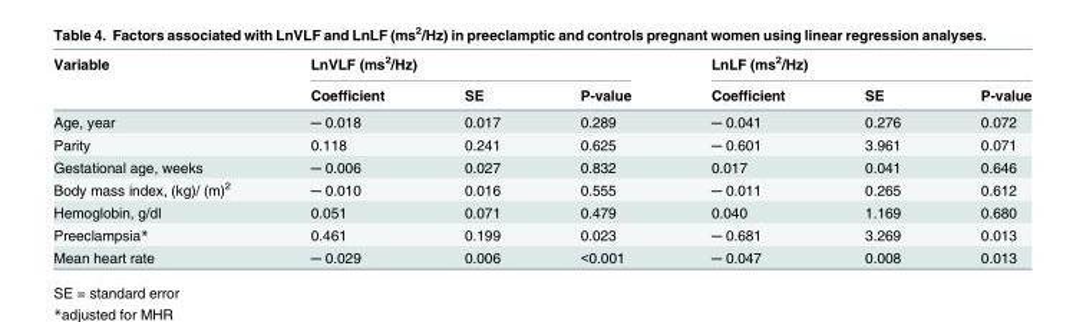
<table><thead><tr><td rowspan="2">Variable</td><td colspan="3">LnVLF (ms<sup>2</sup>/Hz)</td><td colspan="3">LnLF (ms<sup>2</sup>/Hz)</td></tr><tr><td>Coefficient</td><td>SE</td><td>P-value</td><td>Coefficient</td><td>SE</td><td>P-value</td></tr></thead><tbody><tr><td>Age, year</td><td>─ 0.018</td><td>0.017</td><td>0.289</td><td>─ 0.041</td><td>0.276</td><td>0.072</td></tr><tr><td>Parity</td><td>0.118</td><td>0.241</td><td>0.625</td><td>─ 0.601</td><td>3.961</td><td>0.071</td></tr><tr><td>Gestational age, weeks</td><td>─ 0.006</td><td>0.027</td><td>0.832</td><td>0.017</td><td>0.041</td><td>0.646</td></tr><tr><td>Body mass index, (kg)/ (m)<sup>2</sup></td><td>─ 0.010</td><td>0.016</td><td>0.555</td><td>─ 0.011</td><td>0.265</td><td>0.612</td></tr><tr><td>Hemoglobin, g/dl</td><td>0.051</td><td>0.071</td><td>0.479</td><td>0.040</td><td>1.169</td><td>0.680</td></tr><tr><td>Preeclampsia*</td><td>0.461</td><td>0.199</td><td>0.023</td><td>─ 0.681</td><td>3.269</td><td>0.013</td></tr><tr><td>Mean heart rate</td><td>─ 0.029</td><td>0.006</td><td>&lt;0.001</td><td>─ 0.047</td><td>0.008</td><td>0.013</td></tr></tbody></table>